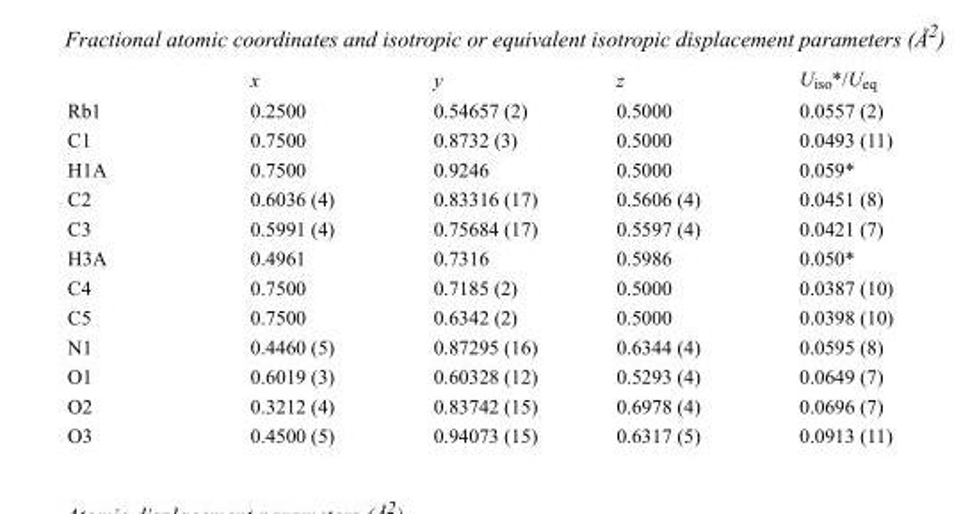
<table><thead><tr><td></td><td>x</td><td>y</td><td>z</td><td>U<sub>iso</sub>*/U<sub>eq</sub></td></tr></thead><tbody><tr><td>Rb1</td><td>0.2500</td><td>0.54657 (2)</td><td>0.5000</td><td>0.0557 (2)</td></tr><tr><td>C1</td><td>0.7500</td><td>0.8732 (3)</td><td>0.5000</td><td>0.0493 (11)</td></tr><tr><td>H1A</td><td>0.7500</td><td>0.9246</td><td>0.5000</td><td>0.059*</td></tr><tr><td>C2</td><td>0.6036 (4)</td><td>0.83316 (17)</td><td>0.5606 (4)</td><td>0.0451 (8)</td></tr><tr><td>C3</td><td>0.5991 (4)</td><td>0.75684 (17)</td><td>0.5597 (4)</td><td>0.0421 (7)</td></tr><tr><td>H3A</td><td>0.4961</td><td>0.7316</td><td>0.5986</td><td>0.050*</td></tr><tr><td>C4</td><td>0.7500</td><td>0.7185 (2)</td><td>0.5000</td><td>0.0387 (10)</td></tr><tr><td>C5</td><td>0.7500</td><td>0.6342 (2)</td><td>0.5000</td><td>0.0398 (10)</td></tr><tr><td>N1</td><td>0.4460 (5)</td><td>0.87295 (16)</td><td>0.6344 (4)</td><td>0.0595 (8)</td></tr><tr><td>O1</td><td>0.6019 (3)</td><td>0.60328 (12)</td><td>0.5293 (4)</td><td>0.0649 (7)</td></tr><tr><td>O2</td><td>0.3212 (4)</td><td>0.83742 (15)</td><td>0.6978 (4)</td><td>0.0696 (7)</td></tr><tr><td>O3</td><td>0.4500 (5)</td><td>0.94073 (15)</td><td>0.6317 (5)</td><td>0.0913 (11)</td></tr></tbody></table>